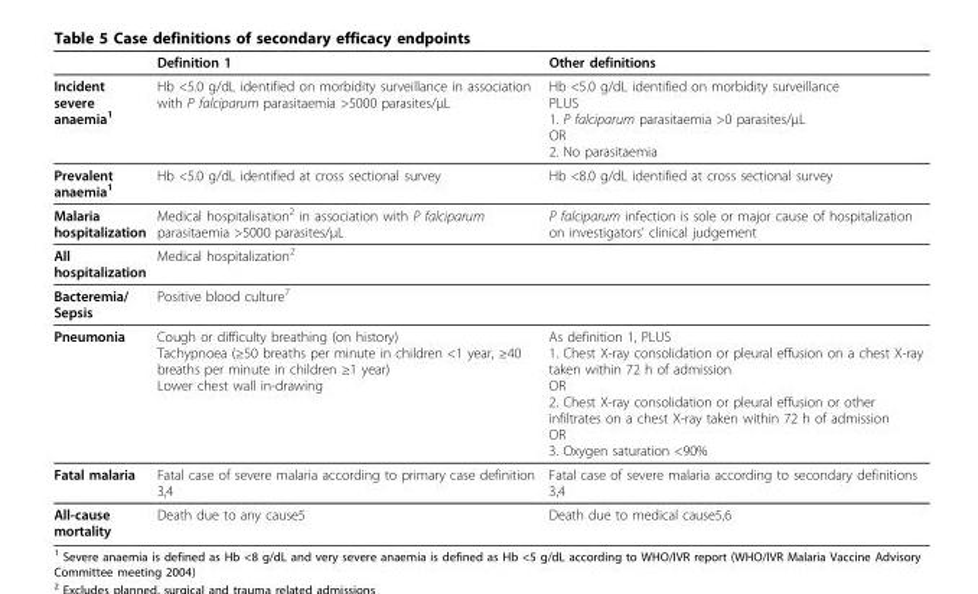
<table><thead><tr><td></td><td>Definition 1</td><td>Other definitions</td></tr></thead><tbody><tr><td>Incident severe anaemia<sup>1</sup></td><td>Hb &lt;5.0 g/dL identified on morbidity surveillance in association with P falciparum parasitaemia &gt;5000 parasites/μL</td><td>Hb &lt;5.0 g/dL identified on morbidity surveillance PLUS 1. P falciparum parasitaemia &gt;0 parasites/μL OR 2. No parasitaemia</td></tr><tr><td>Prevalent anaemia<sup>1</sup></td><td>Hb &lt;5.0 g/dL identified at cross sectional survey</td><td>Hb &lt;8.0 g/dL identified at cross sectional survey</td></tr><tr><td>Malaria hospitalization</td><td>Medical hospitalisation<sup>2</sup> in association with P falciparum parasitaemia &gt;5000 parasites/μL</td><td>P falciparum infection is sole or major cause of hospitalization on investigators’ clinical judgement</td></tr><tr><td>All hospitalization</td><td>Medical hospitalization<sup>2</sup></td><td></td></tr><tr><td>Bacteremia/ Sepsis</td><td>Positive blood culture<sup>7</sup></td><td></td></tr><tr><td>Pneumonia</td><td>Cough or difficulty breathing (on history) Tachypnoea (≥50 breaths per minute in children &lt;1 year, ≥40 breaths per minute in children ≥1 year) Lower chest wall in-drawing</td><td>As definition 1, PLUS 1. Chest X-ray consolidation or pleural effusion on a chest X-ray taken within 72 h of admission OR 2. Chest X-ray consolidation or pleural effusion or other infiltrates on a chest X-ray taken within 72 h of admission OR 3. Oxygen saturation &lt;90%</td></tr><tr><td>Fatal malaria</td><td>Fatal case of severe malaria according to primary case definition 3,4</td><td>Fatal case of severe malaria according to secondary definitions 3,4</td></tr><tr><td>All-cause mortality</td><td>Death due to any cause5</td><td>Death due to medical cause5,6</td></tr></tbody></table>